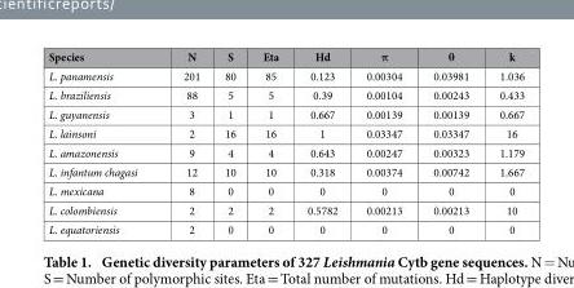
<table><thead><tr><td>Species</td><td>N</td><td>S</td><td>Eta</td><td>Hd</td><td>π</td><td>θ</td><td>k</td></tr></thead><tbody><tr><td>L. panamensis</td><td>201</td><td>80</td><td>85</td><td>0.123</td><td>0.00304</td><td>0.03981</td><td>1.036</td></tr><tr><td>L. braziliensis</td><td>88</td><td>5</td><td>5</td><td>0.39</td><td>0.00104</td><td>0.00243</td><td>0.433</td></tr><tr><td>L. guyanensis</td><td>3</td><td>1</td><td>1</td><td>0.667</td><td>0.00139</td><td>0.00139</td><td>0.667</td></tr><tr><td>L. lainsoni</td><td>2</td><td>16</td><td>16</td><td>1</td><td>0.03347</td><td>0.03347</td><td>16</td></tr><tr><td>L. amazonensis</td><td>9</td><td>4</td><td>4</td><td>0.643</td><td>0.00247</td><td>0.00323</td><td>1.179</td></tr><tr><td>L. infantum chagasi</td><td>12</td><td>10</td><td>10</td><td>0.318</td><td>0.00374</td><td>0.00742</td><td>1.667</td></tr><tr><td>L. mexicana</td><td>8</td><td>0</td><td>0</td><td>0</td><td>0</td><td>0</td><td>0</td></tr><tr><td>L. colombiensis</td><td>2</td><td>2</td><td>2</td><td>0.5782</td><td>0.00213</td><td>0.00213</td><td>10</td></tr><tr><td>L. equatoriensis</td><td>2</td><td>0</td><td>0</td><td>0</td><td>0</td><td>0</td><td>0</td></tr></tbody></table>